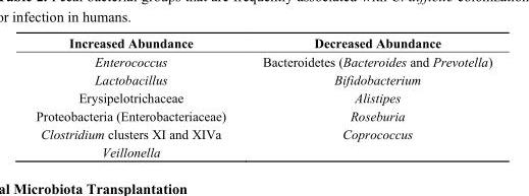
<table><thead><tr><td>Increased Abundance</td><td>Decreased Abundance</td></tr></thead><tbody><tr><td>Enterococcus</td><td>Bacteroidetes (Bacteroides and Prevotella)</td></tr><tr><td>Lactobacillus</td><td>Bifidobacterium</td></tr><tr><td>Erysipelotrichaceae</td><td>Alistipes</td></tr><tr><td>Proteobacteria (Enterobacteriaceae)</td><td>Roseburia</td></tr><tr><td>Clostridium clusters XI and XIVa</td><td>Coprococcus</td></tr><tr><td>Veillonella</td><td></td></tr></tbody></table>